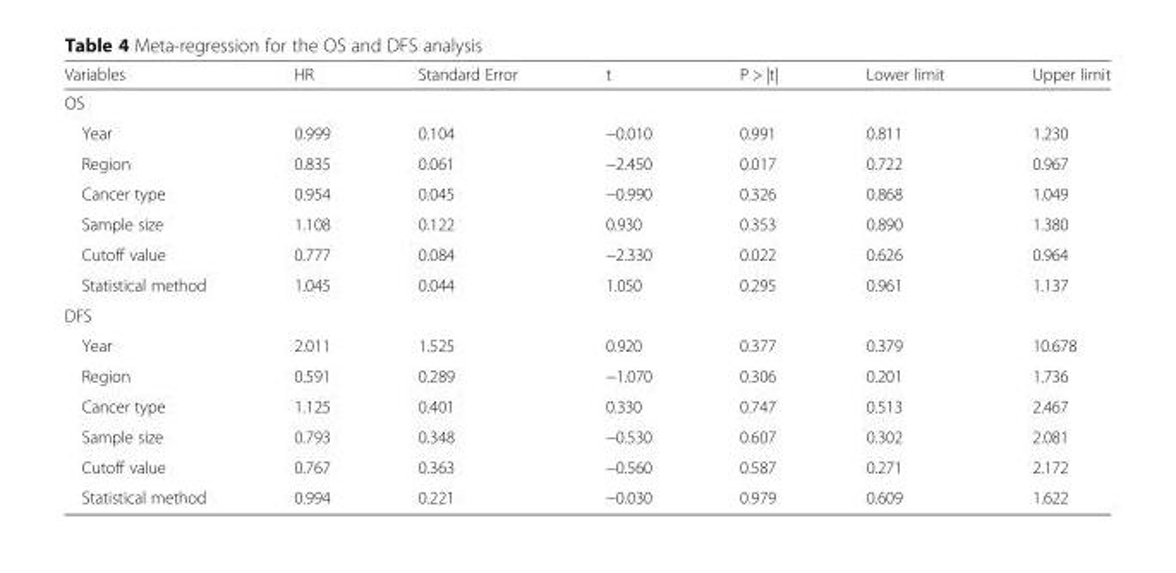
<table><thead><tr><td>Variables</td><td>HR</td><td>Standard Error</td><td>t</td><td>P &gt; |t|</td><td>Lower limit</td><td>Upper limit</td></tr></thead><tbody><tr><td colspan="7">OS</td></tr><tr><td>Year</td><td>0.999</td><td>0.104</td><td>−0.010</td><td>0.991</td><td>0.811</td><td>1.230</td></tr><tr><td>Region</td><td>0.835</td><td>0.061</td><td>−2.450</td><td>0.017</td><td>0.722</td><td>0.967</td></tr><tr><td>Cancer type</td><td>0.954</td><td>0.045</td><td>−0.990</td><td>0.326</td><td>0.868</td><td>1.049</td></tr><tr><td>Sample size</td><td>1.108</td><td>0.122</td><td>0.930</td><td>0.353</td><td>0.890</td><td>1.380</td></tr><tr><td>Cutoff value</td><td>0.777</td><td>0.084</td><td>−2.330</td><td>0.022</td><td>0.626</td><td>0.964</td></tr><tr><td>Statistical method</td><td>1.045</td><td>0.044</td><td>1.050</td><td>0.295</td><td>0.961</td><td>1.137</td></tr><tr><td colspan="7">DFS</td></tr><tr><td>Year</td><td>2.011</td><td>1.525</td><td>0.920</td><td>0.377</td><td>0.379</td><td>10.678</td></tr><tr><td>Region</td><td>0.591</td><td>0.289</td><td>−1.070</td><td>0.306</td><td>0.201</td><td>1.736</td></tr><tr><td>Cancer type</td><td>1.125</td><td>0.401</td><td>0.330</td><td>0.747</td><td>0.513</td><td>2.467</td></tr><tr><td>Sample size</td><td>0.793</td><td>0.348</td><td>−0.530</td><td>0.607</td><td>0.302</td><td>2.081</td></tr><tr><td>Cutoff value</td><td>0.767</td><td>0.363</td><td>−0.560</td><td>0.587</td><td>0.271</td><td>2.172</td></tr><tr><td>Statistical method</td><td>0.994</td><td>0.221</td><td>−0.030</td><td>0.979</td><td>0.609</td><td>1.622</td></tr></tbody></table>